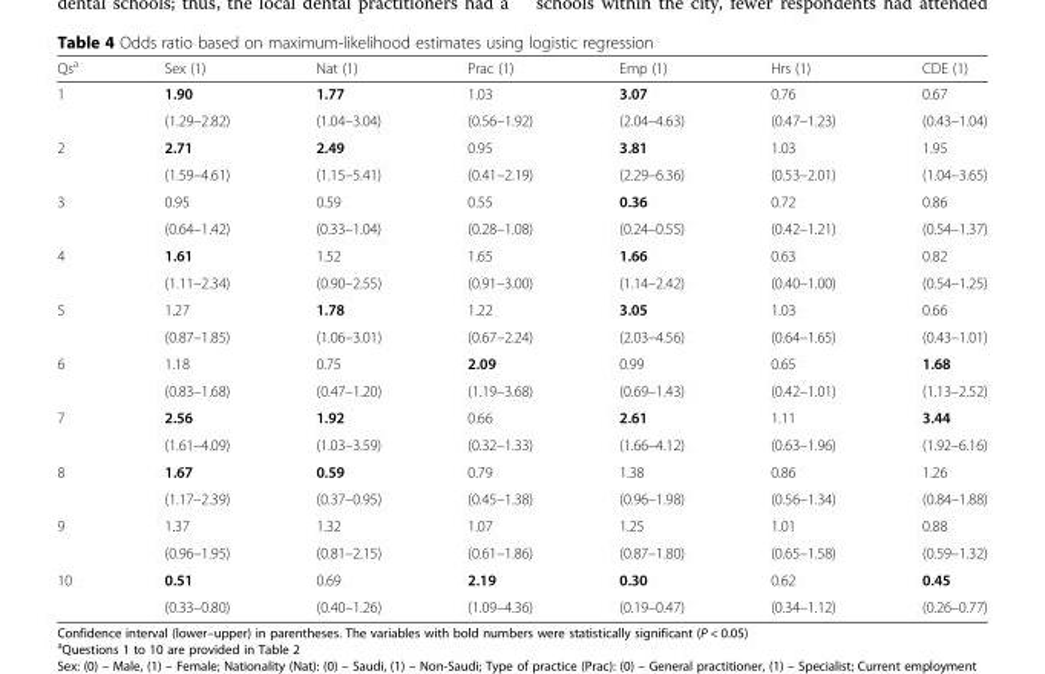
<table><thead><tr><td>Qs<sup>a</sup></td><td>Sex (1)</td><td>Nat (1)</td><td>Prac (1)</td><td>Emp (1)</td><td>Hrs (1)</td><td>CDE (1)</td></tr></thead><tbody><tr><td rowspan="2">1</td><td>1.90</td><td>1.77</td><td>1.03</td><td>3.07</td><td>0.76</td><td>0.67</td></tr><tr><td>(1.29–2.82)</td><td>(1.04–3.04)</td><td>(0.56–1.92)</td><td>(2.04–4.63)</td><td>(0.47–1.23)</td><td>(0.43–1.04)</td></tr><tr><td rowspan="2">2</td><td>2.71</td><td>2.49</td><td>0.95</td><td>3.81</td><td>1.03</td><td>1.95</td></tr><tr><td>(1.59–4.61)</td><td>(1.15–5.41)</td><td>(0.41–2.19)</td><td>(2.29–6.36)</td><td>(0.53–2.01)</td><td>(1.04–3.65)</td></tr><tr><td rowspan="2">3</td><td>0.95</td><td>0.59</td><td>0.55</td><td>0.36</td><td>0.72</td><td>0.86</td></tr><tr><td>(0.64–1.42)</td><td>(0.33–1.04)</td><td>(0.28–1.08)</td><td>(0.24–0.55)</td><td>(0.42–1.21)</td><td>(0.54–1.37)</td></tr><tr><td rowspan="2">4</td><td>1.61</td><td>1.52</td><td>1.65</td><td>1.66</td><td>0.63</td><td>0.82</td></tr><tr><td>(1.11–2.34)</td><td>(0.90–2.55)</td><td>(0.91–3.00)</td><td>(1.14–2.42)</td><td>(0.40–1.00)</td><td>(0.54–1.25)</td></tr><tr><td rowspan="2">5</td><td>1.27</td><td>1.78</td><td>1.22</td><td>3.05</td><td>1.03</td><td>0.66</td></tr><tr><td>(0.87–1.85)</td><td>(1.06–3.01)</td><td>(0.67–2.24)</td><td>(2.03–4.56)</td><td>(0.64–1.65)</td><td>(0.43–1.01)</td></tr><tr><td rowspan="2">6</td><td>1.18</td><td>0.75</td><td>2.09</td><td>0.99</td><td>0.65</td><td>1.68</td></tr><tr><td>(0.83–1.68)</td><td>(0.47–1.20)</td><td>(1.19–3.68)</td><td>(0.69–1.43)</td><td>(0.42–1.01)</td><td>(1.13–2.52)</td></tr><tr><td rowspan="2">7</td><td>2.56</td><td>1.92</td><td>0.66</td><td>2.61</td><td>1.11</td><td>3.44</td></tr><tr><td>(1.61–4.09)</td><td>(1.03–3.59)</td><td>(0.32–1.33)</td><td>(1.66–4.12)</td><td>(0.63–1.96)</td><td>(1.92–6.16)</td></tr><tr><td rowspan="2">8</td><td>1.67</td><td>0.59</td><td>0.79</td><td>1.38</td><td>0.86</td><td>1.26</td></tr><tr><td>(1.17–2.39)</td><td>(0.37–0.95)</td><td>(0.45–1.38)</td><td>(0.96–1.98)</td><td>(0.56–1.34)</td><td>(0.84–1.88)</td></tr><tr><td rowspan="2">9</td><td>1.37</td><td>1.32</td><td>1.07</td><td>1.25</td><td>1.01</td><td>0.88</td></tr><tr><td>(0.96–1.95)</td><td>(0.81–2.15)</td><td>(0.61–1.86)</td><td>(0.87–1.80)</td><td>(0.65–1.58)</td><td>(0.59–1.32)</td></tr><tr><td rowspan="2">10</td><td>0.51</td><td>0.69</td><td>2.19</td><td>0.30</td><td>0.62</td><td>0.45</td></tr><tr><td>(0.33–0.80)</td><td>(0.40–1.26)</td><td>(1.09–4.36)</td><td>(0.19–0.47)</td><td>(0.34–1.12)</td><td>(0.26–0.77)</td></tr></tbody></table>